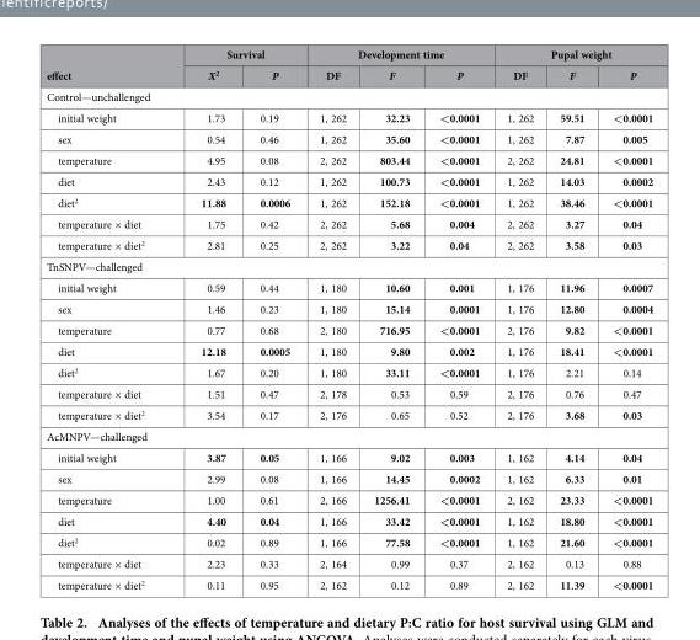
<table><thead><tr><td rowspan="2">effect</td><td colspan="2">Survival</td><td colspan="3">Development time</td><td colspan="3">Pupal weight</td></tr><tr><td>X<sup>2</sup></td><td>P</td><td>DF</td><td>F</td><td>P</td><td>DF</td><td>F</td><td>P</td></tr></thead><tbody><tr><td colspan="9">Control—unchallenged</td></tr><tr><td>initial weight</td><td>1.73</td><td>0.19</td><td>1, 262</td><td>32.23</td><td>&lt;0.0001</td><td>1, 262</td><td>59.51</td><td>&lt;0.0001</td></tr><tr><td>sex</td><td>0.54</td><td>0.46</td><td>1, 262</td><td>35.60</td><td>&lt;0.0001</td><td>1, 262</td><td>7.87</td><td>0.005</td></tr><tr><td>temperature</td><td>4.95</td><td>0.08</td><td>2, 262</td><td>803.44</td><td>&lt;0.0001</td><td>2, 262</td><td>24.81</td><td>&lt;0.0001</td></tr><tr><td>diet</td><td>2.43</td><td>0.12</td><td>1, 262</td><td>100.73</td><td>&lt;0.0001</td><td>1, 262</td><td>14.03</td><td>0.0002</td></tr><tr><td>diet<sup>2</sup></td><td>11.88</td><td>0.0006</td><td>1, 262</td><td>152.18</td><td>&lt;0.0001</td><td>1, 262</td><td>38.46</td><td>&lt;0.0001</td></tr><tr><td>temperature × diet</td><td>1.75</td><td>0.42</td><td>2, 262</td><td>5.68</td><td>0.004</td><td>2, 262</td><td>3.27</td><td>0.04</td></tr><tr><td>temperature × diet<sup>2</sup></td><td>2.81</td><td>0.25</td><td>2, 262</td><td>3.22</td><td>0.04</td><td>2, 262</td><td>3.58</td><td>0.03</td></tr><tr><td colspan="9">TnSNPV—challenged</td></tr><tr><td>initial weight</td><td>0.59</td><td>0.44</td><td>1, 180</td><td>10.60</td><td>0.001</td><td>1, 176</td><td>11.96</td><td>0.0007</td></tr><tr><td>sex</td><td>1.46</td><td>0.23</td><td>1, 180</td><td>15.14</td><td>0.0001</td><td>1, 176</td><td>12.80</td><td>0.0004</td></tr><tr><td>temperature</td><td>0.77</td><td>0.68</td><td>2, 180</td><td>716.95</td><td>&lt;0.0001</td><td>2, 176</td><td>9.82</td><td>&lt;0.0001</td></tr><tr><td>diet</td><td>12.18</td><td>0.0005</td><td>1, 180</td><td>9.80</td><td>0.002</td><td>1, 176</td><td>18.41</td><td>&lt;0.0001</td></tr><tr><td>diet<sup>2</sup></td><td>1.67</td><td>0.20</td><td>1, 180</td><td>33.11</td><td>&lt;0.0001</td><td>1, 176</td><td>2.21</td><td>0.14</td></tr><tr><td>temperature × diet</td><td>1.51</td><td>0.47</td><td>2, 178</td><td>0.53</td><td>0.59</td><td>2, 176</td><td>0.76</td><td>0.47</td></tr><tr><td>temperature × diet<sup>2</sup></td><td>3.54</td><td>0.17</td><td>2, 176</td><td>0.65</td><td>0.52</td><td>2, 176</td><td>3.68</td><td>0.03</td></tr><tr><td colspan="9">AcMNPV—challenged</td></tr><tr><td>initial weight</td><td>3.87</td><td>0.05</td><td>1, 166</td><td>9.02</td><td>0.003</td><td>1, 162</td><td>4.14</td><td>0.04</td></tr><tr><td>sex</td><td>2.99</td><td>0.08</td><td>1, 166</td><td>14.45</td><td>0.0002</td><td>1, 162</td><td>6.33</td><td>0.01</td></tr><tr><td>temperature</td><td>1.00</td><td>0.61</td><td>2, 166</td><td>1256.41</td><td>&lt;0.0001</td><td>2, 162</td><td>23.33</td><td>&lt;0.0001</td></tr><tr><td>diet</td><td>4.40</td><td>0.04</td><td>1, 166</td><td>33.42</td><td>&lt;0.0001</td><td>1, 162</td><td>18.80</td><td>&lt;0.0001</td></tr><tr><td>diet<sup>2</sup></td><td>0.02</td><td>0.89</td><td>1, 166</td><td>77.58</td><td>&lt;0.0001</td><td>1, 162</td><td>21.60</td><td>&lt;0.0001</td></tr><tr><td>temperature × diet</td><td>2.23</td><td>0.33</td><td>2, 164</td><td>0.99</td><td>0.37</td><td>2, 162</td><td>0.13</td><td>0.88</td></tr><tr><td>temperature × diet<sup>2</sup></td><td>0.11</td><td>0.95</td><td>2, 162</td><td>0.12</td><td>0.89</td><td>2, 162</td><td>11.39</td><td>&lt;0.0001</td></tr></tbody></table>